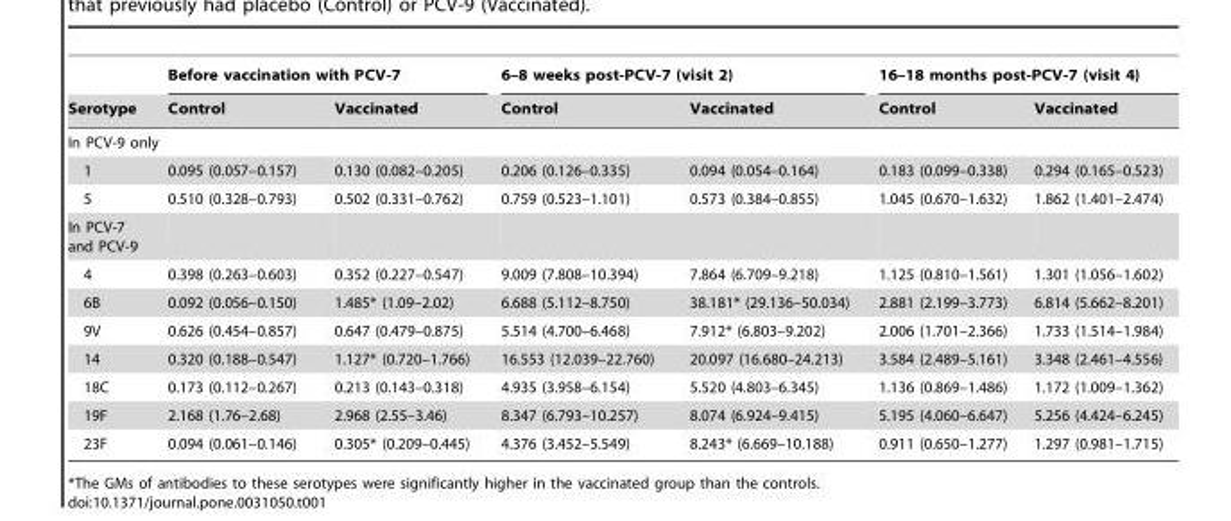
<table><thead><tr><td rowspan="2">Serotype</td><td colspan="2">Before vaccination with PCV-7</td><td colspan="2">6–8 weeks post-PCV-7 (visit 2)</td><td colspan="2">16–18 months post-PCV-7 (visit 4)</td></tr><tr><td>Control</td><td>Vaccinated</td><td>Control</td><td>Vaccinated</td><td>Control</td><td>Vaccinated</td></tr></thead><tbody><tr><td colspan="7">In PCV-9 only</td></tr><tr><td>1</td><td>0.095 (0.057–0.157)</td><td>0.130 (0.082–0.205)</td><td>0.206 (0.126–0.335)</td><td>0.094 (0.054–0.164)</td><td>0.183 (0.099–0.338)</td><td>0.294 (0.165–0.523)</td></tr><tr><td>5</td><td>0.510 (0.328–0.793)</td><td>0.502 (0.331–0.762)</td><td>0.759 (0.523–1.101)</td><td>0.573 (0.384–0.855)</td><td>1.045 (0.670–1.632)</td><td>1.862 (1.401–2.474)</td></tr><tr><td colspan="7">In PCV-7 and PCV-9</td></tr><tr><td>4</td><td>0.398 (0.263–0.603)</td><td>0.352 (0.227–0.547)</td><td>9.009 (7.808–10.394)</td><td>7.864 (6.709–9.218)</td><td>1.125 (0.810–1.561)</td><td>1.301 (1.056–1.602)</td></tr><tr><td>6B</td><td>0.092 (0.056–0.150)</td><td>1.485* (1.09–2.02)</td><td>6.688 (5.112–8.750)</td><td>38.181* (29.136–50.034)</td><td>2.881 (2.199–3.773)</td><td>6.814 (5.662–8.201)</td></tr><tr><td>9V</td><td>0.626 (0.454–0.857)</td><td>0.647 (0.479–0.875)</td><td>5.514 (4.700–6.468)</td><td>7.912* (6.803–9.202)</td><td>2.006 (1.701–2.366)</td><td>1.733 (1.514–1.984)</td></tr><tr><td>14</td><td>0.320 (0.188–0.547)</td><td>1.127* (0.720–1.766)</td><td>16.553 (12.039–22.760)</td><td>20.097 (16.680–24.213)</td><td>3.584 (2.489–5.161)</td><td>3.348 (2.461–4.556)</td></tr><tr><td>18C</td><td>0.173 (0.112–0.267)</td><td>0.213 (0.143–0.318)</td><td>4.935 (3.958–6.154)</td><td>5.520 (4.803–6.345)</td><td>1.136 (0.869–1.486)</td><td>1.172 (1.009–1.362)</td></tr><tr><td>19F</td><td>2.168 (1.76–2.68)</td><td>2.968 (2.55–3.46)</td><td>8.347 (6.793–10.257)</td><td>8.074 (6.924–9.415)</td><td>5.195 (4.060–6.647)</td><td>5.256 (4.424–6.245)</td></tr><tr><td>23F</td><td>0.094 (0.061–0.146)</td><td>0.305* (0.209–0.445)</td><td>4.376 (3.452–5.549)</td><td>8.243* (6.669–10.188)</td><td>0.911 (0.650–1.277)</td><td>1.297 (0.981–1.715)</td></tr></tbody></table>